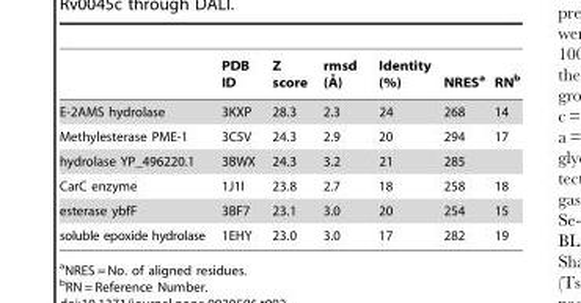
<table><thead><tr><td></td><td>PDB ID</td><td>Z score</td><td>rmsd (A˚ )</td><td>Identity (%)</td><td>NRES<sup>a</sup></td><td>RN<sup>b</sup></td></tr></thead><tbody><tr><td>E-2AMS hydrolase</td><td>3KXP</td><td>28.3</td><td>2.3</td><td>24</td><td>268</td><td>14</td></tr><tr><td>Methylesterase PME-1</td><td>3C5V</td><td>24.3</td><td>2.9</td><td>20</td><td>294</td><td>17</td></tr><tr><td>hydrolase YP_496220.1</td><td>3BWX</td><td>24.3</td><td>3.2</td><td>21</td><td>285</td><td></td></tr><tr><td>CarC enzyme</td><td>1J1I</td><td>23.8</td><td>2.7</td><td>18</td><td>258</td><td>18</td></tr><tr><td>esterase ybfF</td><td>3BF7</td><td>23.1</td><td>3.0</td><td>20</td><td>254</td><td>15</td></tr><tr><td>soluble epoxide hydrolase</td><td>1EHY</td><td>23.0</td><td>3.0</td><td>17</td><td>282</td><td>19</td></tr></tbody></table>